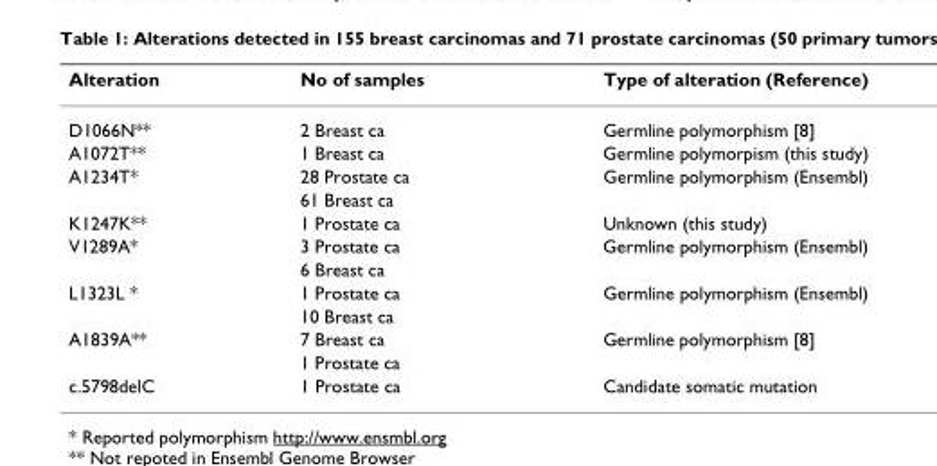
<table><thead><tr><td>Alteration</td><td>No of samples</td><td>Type of alteration (Reference)</td></tr></thead><tbody><tr><td>D1066N**</td><td>2 Breast ca</td><td>Germline polymorphism [8]</td></tr><tr><td>A1072T**</td><td>1 Breast ca</td><td>Germline polymorpism (this study)</td></tr><tr><td rowspan="2">A1234T*</td><td>28 Prostate ca</td><td>Germline polymorphism (Ensembl)</td></tr><tr><td>61 Breast ca</td><td></td></tr><tr><td>K1247K**</td><td>1 Prostate ca</td><td>Unknown (this study)</td></tr><tr><td rowspan="2">V1289A*</td><td>3 Prostate ca</td><td>Germline polymorphism (Ensembl)</td></tr><tr><td>6 Breast ca</td><td></td></tr><tr><td rowspan="2">L1323L *</td><td>1 Prostate ca</td><td>Germline polymorphism (Ensembl)</td></tr><tr><td>10 Breast ca</td><td></td></tr><tr><td rowspan="2">A1839A**</td><td>7 Breast ca</td><td>Germline polymorphism [8]</td></tr><tr><td>1 Prostate ca</td><td></td></tr><tr><td>c.5798delC</td><td>1 Prostate ca</td><td>Candidate somatic mutation</td></tr></tbody></table>